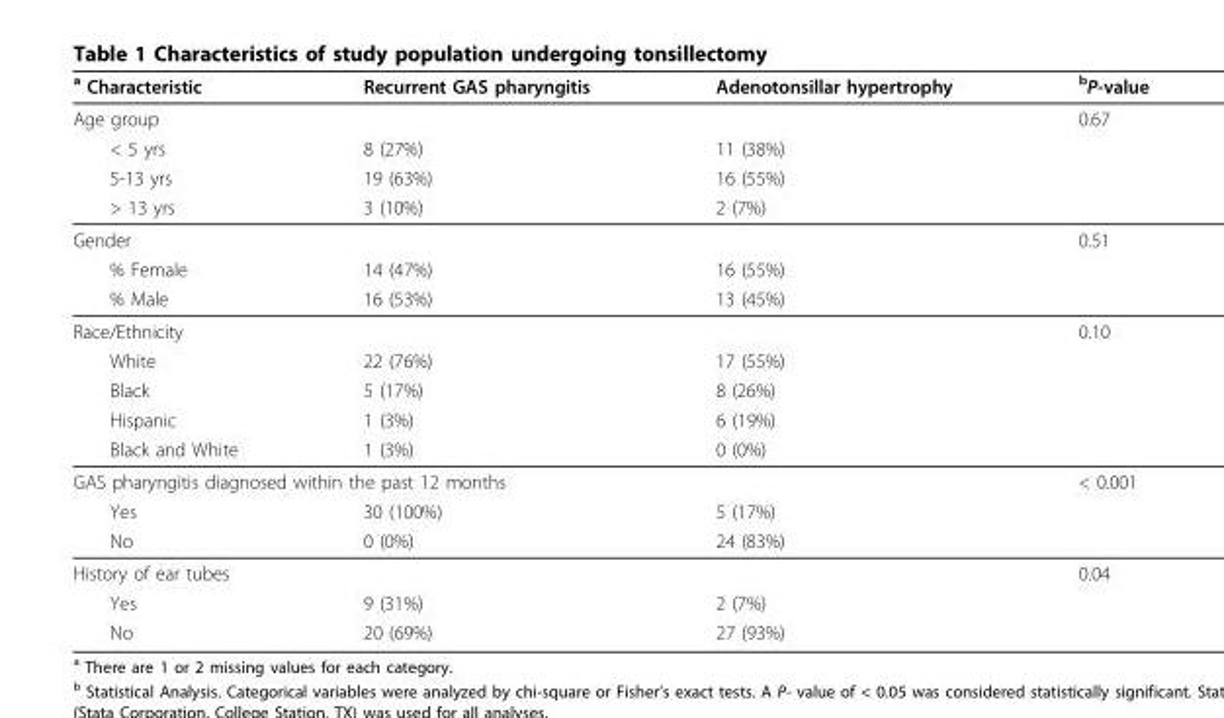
<table><thead><tr><td><sup>a</sup> Characteristic</td><td>Recurrent GAS pharyngitis</td><td>Adenotonsillar hypertrophy</td><td><sup>b</sup>P-value</td></tr></thead><tbody><tr><td>Age group</td><td></td><td></td><td>0.67</td></tr><tr><td>&lt; 5 yrs</td><td>8 (27%)</td><td>11 (38%)</td><td></td></tr><tr><td>5-13 yrs</td><td>19 (63%)</td><td>16 (55%)</td><td></td></tr><tr><td>&gt; 13 yrs</td><td>3 (10%)</td><td>2 (7%)</td><td></td></tr><tr><td>Gender</td><td></td><td></td><td>0.51</td></tr><tr><td>% Female</td><td>14 (47%)</td><td>16 (55%)</td><td></td></tr><tr><td>% Male</td><td>16 (53%)</td><td>13 (45%)</td><td></td></tr><tr><td>Race/Ethnicity</td><td></td><td></td><td>0.10</td></tr><tr><td>White</td><td>22 (76%)</td><td>17 (55%)</td><td></td></tr><tr><td>Black</td><td>5 (17%)</td><td>8 (26%)</td><td></td></tr><tr><td>Hispanic</td><td>1 (3%)</td><td>6 (19%)</td><td></td></tr><tr><td>Black and White</td><td>1 (3%)</td><td>0 (0%)</td><td></td></tr><tr><td colspan="3">GAS pharyngitis diagnosed within the past 12 months</td><td>&lt; 0.001</td></tr><tr><td>Yes</td><td>30 (100%)</td><td>5 (17%)</td><td></td></tr><tr><td>No</td><td>0 (0%)</td><td>24 (83%)</td><td></td></tr><tr><td colspan="2">History of ear tubes</td><td></td><td>0.04</td></tr><tr><td>Yes</td><td>9 (31%)</td><td>2 (7%)</td><td></td></tr><tr><td>No</td><td>20 (69%)</td><td>27 (93%)</td><td></td></tr></tbody></table>